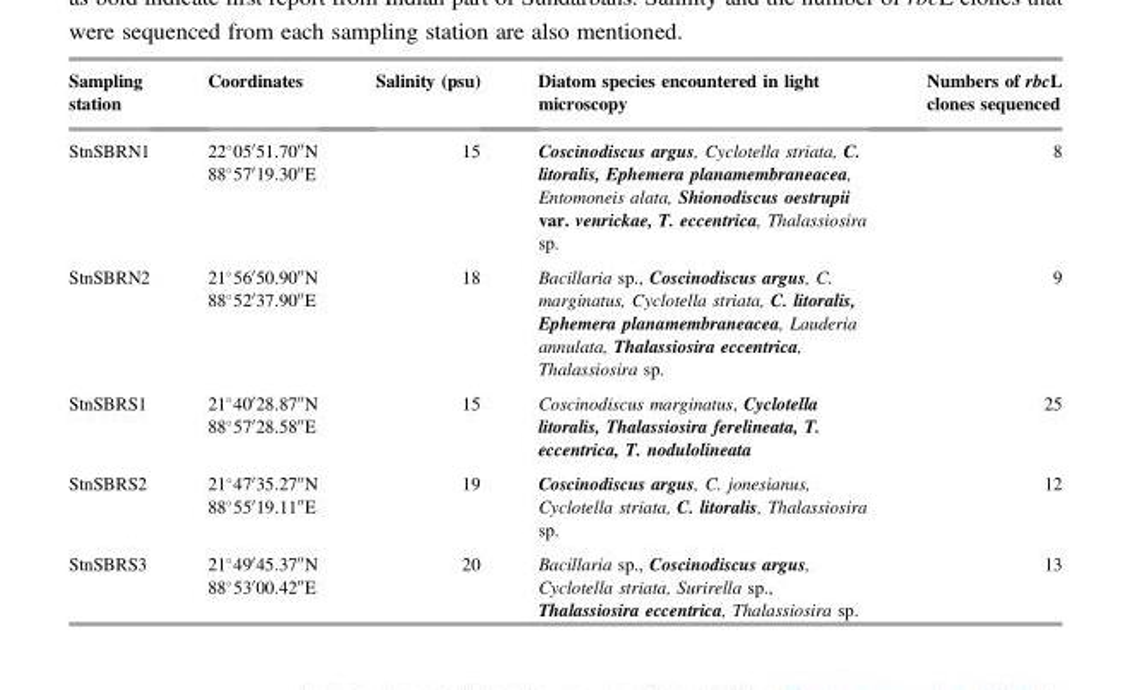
<table><thead><tr><td>Sampling station</td><td>Coordinates</td><td>Salinity (psu)</td><td>Diatom species encountered in light microscopy</td><td>Numbers of rbcL clones sequenced</td></tr></thead><tbody><tr><td>StnSBRN1</td><td>22�05051.7000N 88�57019.3000E</td><td>15</td><td>Coscinodiscus argus, Cyclotella striata, C. litoralis, Ephemera planamembraneacea, Entomoneis alata, Shionodiscus oestrupii var. venrickae, T. eccentrica, Thalassiosira sp.</td><td>8</td></tr><tr><td>StnSBRN2</td><td>21�56050.9000N 88�52037.9000E</td><td>18</td><td>Bacillaria sp., Coscinodiscus argus, C. marginatus, Cyclotella striata, C. litoralis, Ephemera planamembraneacea, Lauderia annulata, Thalassiosira eccentrica, Thalassiosira sp.</td><td>9</td></tr><tr><td>StnSBRS1</td><td>21�40028.8700N 88�57028.5800E</td><td>15</td><td>Coscinodiscus marginatus, Cyclotella litoralis, Thalassiosira ferelineata, T. eccentrica, T. nodulolineata</td><td>25</td></tr><tr><td>StnSBRS2</td><td>21�47035.2700N 88�55019.1100E</td><td>19</td><td>Coscinodiscus argus, C. jonesianus, Cyclotella striata, C. litoralis, Thalassiosira sp.</td><td>12</td></tr><tr><td>StnSBRS3</td><td>21�49045.3700N 88�53000.4200E</td><td>20</td><td>Bacillaria sp., Coscinodiscus argus, Cyclotella striata, Surirella sp., Thalassiosira eccentrica, Thalassiosira sp.</td><td>13</td></tr></tbody></table>